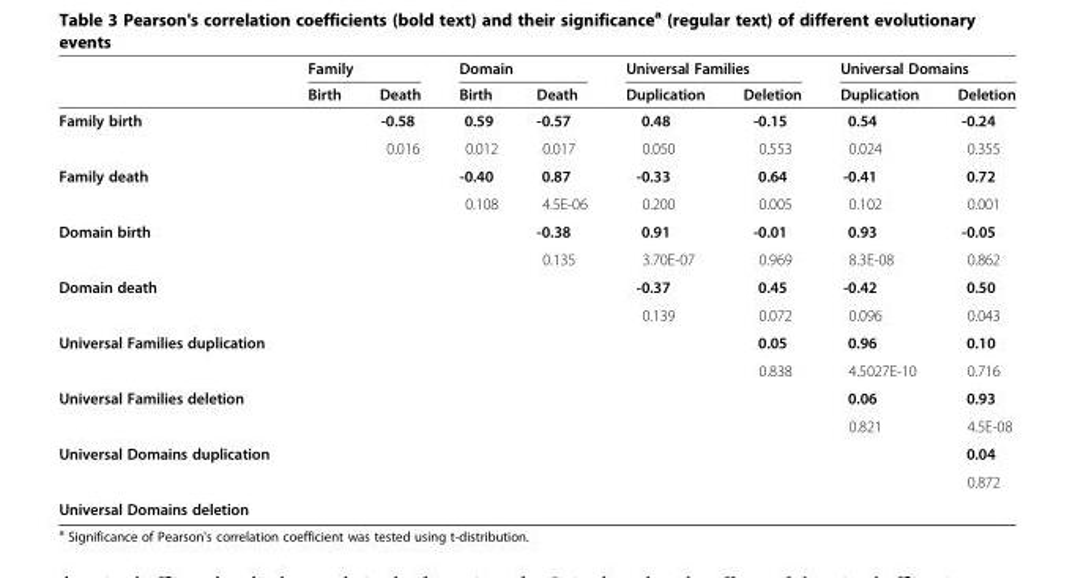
<table><thead><tr><td rowspan="2"></td><td colspan="2">Family</td><td colspan="2">Domain</td><td colspan="2">Universal Families</td><td colspan="2">Universal Domains</td></tr><tr><td>Birth</td><td>Death</td><td>Birth</td><td>Death</td><td>Duplication</td><td>Deletion</td><td>Duplication</td><td>Deletion</td></tr></thead><tbody><tr><td rowspan="2">Family birth</td><td></td><td>-0.58</td><td>0.59</td><td>-0.57</td><td>0.48</td><td>-0.15</td><td>0.54</td><td>-0.24</td></tr><tr><td></td><td>0.016</td><td>0.012</td><td>0.017</td><td>0.050</td><td>0.553</td><td>0.024</td><td>0.355</td></tr><tr><td rowspan="2">Family death</td><td></td><td></td><td>-0.40</td><td>0.87</td><td>-0.33</td><td>0.64</td><td>-0.41</td><td>0.72</td></tr><tr><td></td><td></td><td>0.108</td><td>4.5E-06</td><td>0.200</td><td>0.005</td><td>0.102</td><td>0.001</td></tr><tr><td rowspan="2">Domain birth</td><td></td><td></td><td></td><td>-0.38</td><td>0.91</td><td>-0.01</td><td>0.93</td><td>-0.05</td></tr><tr><td></td><td></td><td></td><td>0.135</td><td>3.70E-07</td><td>0.969</td><td>8.3E-08</td><td>0.862</td></tr><tr><td rowspan="2">Domain death</td><td></td><td></td><td></td><td></td><td>-0.37</td><td>0.45</td><td>-0.42</td><td>0.50</td></tr><tr><td></td><td></td><td></td><td></td><td>0.139</td><td>0.072</td><td>0.096</td><td>0.043</td></tr><tr><td rowspan="2">Universal Families duplication</td><td></td><td></td><td></td><td></td><td></td><td>0.05</td><td>0.96</td><td>0.10</td></tr><tr><td></td><td></td><td></td><td></td><td></td><td>0.838</td><td>4.5027E-10</td><td>0.716</td></tr><tr><td rowspan="2">Universal Families deletion</td><td></td><td></td><td></td><td></td><td></td><td></td><td>0.06</td><td>0.93</td></tr><tr><td></td><td></td><td></td><td></td><td></td><td></td><td>0.821</td><td>4.5E-08</td></tr><tr><td rowspan="2">Universal Domains duplication</td><td></td><td></td><td></td><td></td><td></td><td></td><td></td><td>0.04</td></tr><tr><td></td><td></td><td></td><td></td><td></td><td></td><td></td><td>0.872</td></tr><tr><td>Universal Domains deletion</td><td></td><td></td><td></td><td></td><td></td><td></td><td></td><td></td></tr></tbody></table>